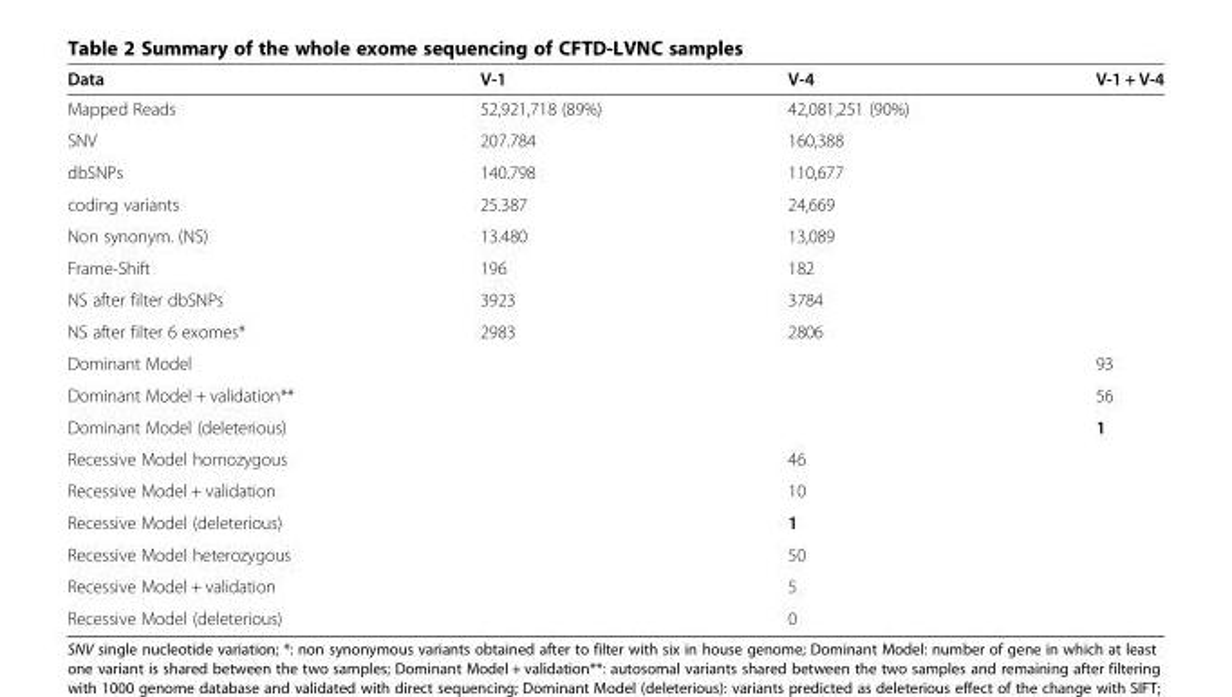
<table><thead><tr><td>Data</td><td>V-1</td><td>V-4</td><td>V-1 + V-4</td></tr></thead><tbody><tr><td>Mapped Reads</td><td>52,921,718 (89%)</td><td>42,081,251 (90%)</td><td></td></tr><tr><td>SNV</td><td>207.784</td><td>160,388</td><td></td></tr><tr><td>dbSNPs</td><td>140.798</td><td>110,677</td><td></td></tr><tr><td>coding variants</td><td>25.387</td><td>24,669</td><td></td></tr><tr><td>Non synonym. (NS)</td><td>13.480</td><td>13,089</td><td></td></tr><tr><td>Frame-Shift</td><td>196</td><td>182</td><td></td></tr><tr><td>NS after filter dbSNPs</td><td>3923</td><td>3784</td><td></td></tr><tr><td>NS after filter 6 exomes*</td><td>2983</td><td>2806</td><td></td></tr><tr><td>Dominant Model</td><td></td><td></td><td>93</td></tr><tr><td>Dominant Model + validation**</td><td></td><td></td><td>56</td></tr><tr><td>Dominant Model (deleterious)</td><td></td><td></td><td>1</td></tr><tr><td>Recessive Model homozygous</td><td></td><td>46</td><td></td></tr><tr><td>Recessive Model + validation</td><td></td><td>10</td><td></td></tr><tr><td>Recessive Model (deleterious)</td><td></td><td>1</td><td></td></tr><tr><td>Recessive Model heterozygous</td><td></td><td>50</td><td></td></tr><tr><td>Recessive Model + validation</td><td></td><td>5</td><td></td></tr><tr><td>Recessive Model (deleterious)</td><td></td><td>0</td><td></td></tr></tbody></table>